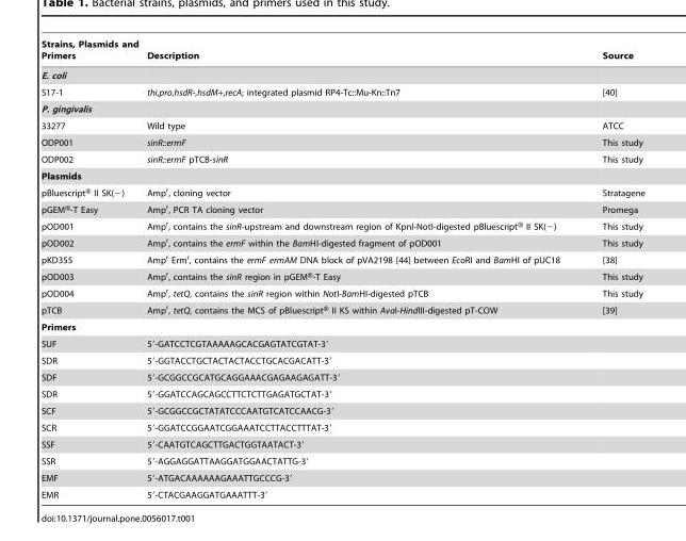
<table><thead><tr><td>Strains, Plasmids and Primers</td><td>Description</td><td>Source</td></tr></thead><tbody><tr><td colspan="3">E. coli</td></tr><tr><td>S17-1</td><td>thi,pro,hsdR-,hsdM+,recA; integrated plasmid RP4-Tc::Mu-Kn::Tn7</td><td>[40]</td></tr><tr><td colspan="3">P. gingivalis</td></tr><tr><td>33277</td><td>Wild type</td><td>ATCC</td></tr><tr><td>ODP001</td><td>sinR::ermF</td><td>This study</td></tr><tr><td>ODP002</td><td>sinR::ermF pTCB-sinR</td><td>This study</td></tr><tr><td colspan="3">Plasmids</td></tr><tr><td>pBluescript® II SK(−)</td><td>Amp<sup>r</sup>, cloning vector</td><td>Stratagene</td></tr><tr><td>pGEM®-T Easy</td><td>Amp<sup>r</sup>, PCR TA cloning vector</td><td>Promega</td></tr><tr><td>pOD001</td><td>Amp<sup>r</sup>, contains the sinR-upstream and downstream region of KpnI-NotI-digested pBluescript® II SK(−)</td><td>This study</td></tr><tr><td>pOD002</td><td>Amp<sup>r</sup>, contains the ermF within the BamHI-digested fragment of pOD001</td><td>This study</td></tr><tr><td>pKD355</td><td>Amp<sup>r</sup> Erm<sup>r</sup>, contains the ermF ermAM DNA block of pVA2198 [44] between EcoRI and BamHI of pUC18</td><td>[38]</td></tr><tr><td>pOD003</td><td>Amp<sup>r</sup>, contains the sinR region in pGEM®-T Easy</td><td>This study</td></tr><tr><td>pOD004</td><td>Amp<sup>r</sup>, tetQ, contains the sinR region within NotI-BamHI-digested pTCB</td><td>This study</td></tr><tr><td>pTCB</td><td>Amp<sup>r</sup>, tetQ, contains the MCS of pBluescript® II KS within AvaI-HindIII-digested pT-COW</td><td>[39]</td></tr><tr><td colspan="3">Primers</td></tr><tr><td>SUF</td><td>5′-GATCCTCGTAAAAAGCACGAGTATCGTAT-3′</td><td></td></tr><tr><td>SDR</td><td>5′-GGTACCTGCTACTACTACCTGCACGACATT-3′</td><td></td></tr><tr><td>SDF</td><td>5′-GCGGCCGCATGCAGGAAACGAGAAGAGATT-3′</td><td></td></tr><tr><td>SDR</td><td>5′-GGATCCAGCAGCCTTCTCTTGAGATGCTAT-3′</td><td></td></tr><tr><td>SCF</td><td>5′-GCGGCCGCTATATCCCAATGTCATCCAACG-3′</td><td></td></tr><tr><td>SCR</td><td>5′-GGATCCGGAATCGGAAATCCTTACCTTTAT-3′</td><td></td></tr><tr><td>SSF</td><td>5′-CAATGTCAGCTTGACTGGTAATACT-3′</td><td></td></tr><tr><td>SSR</td><td>5′-AGGAGGATTAAGGATGGAACTATTG-3′</td><td></td></tr><tr><td>EMF</td><td>5′-ATGACAAAAAAGAAATTGCCCG-3′</td><td></td></tr><tr><td>EMR</td><td>5′-CTACGAAGGATGAAATTT-3′</td><td></td></tr></tbody></table>